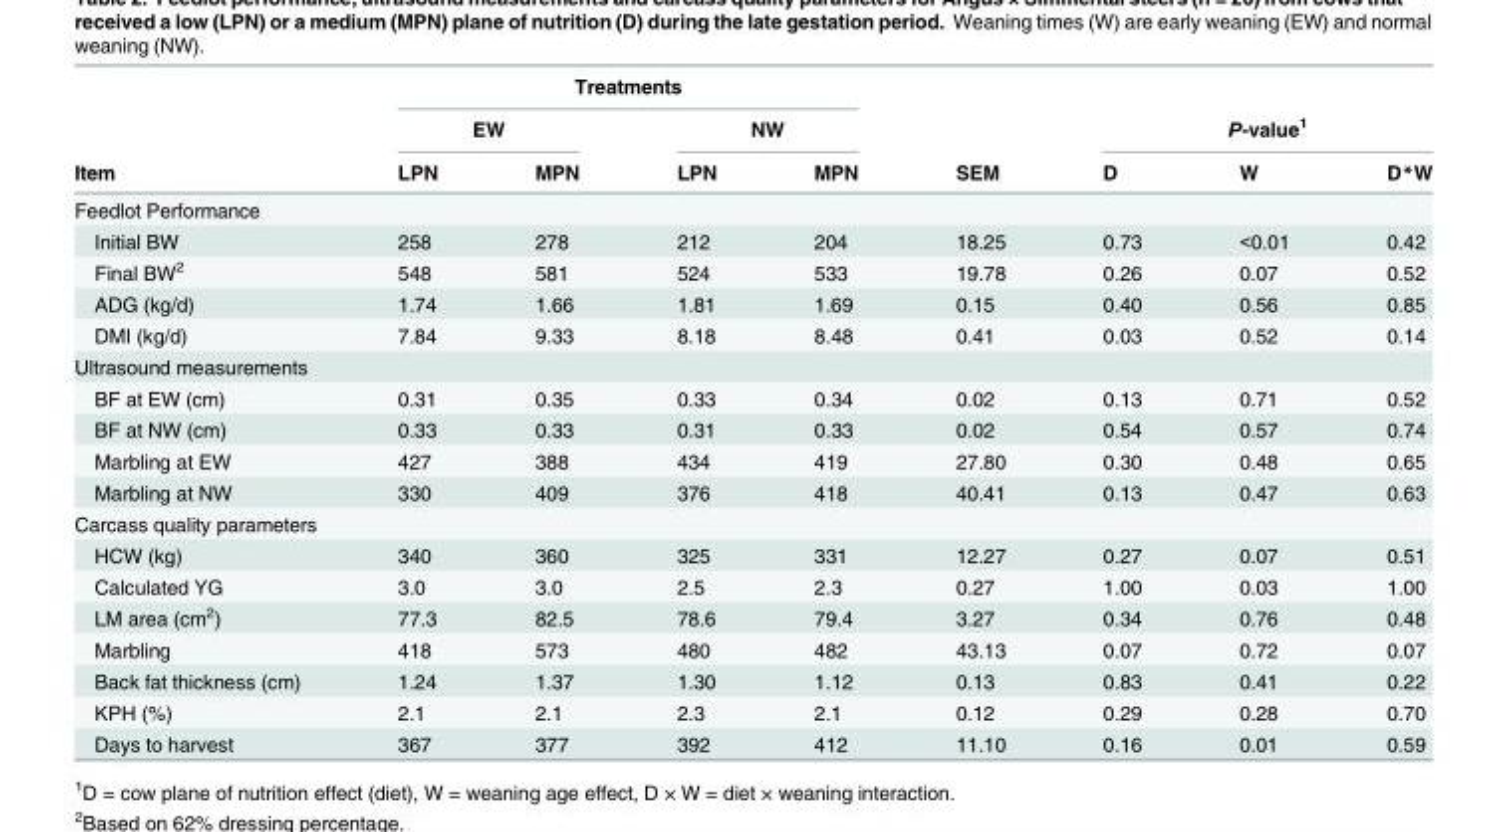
<table><thead><tr><td rowspan="3">Item</td><td colspan="4">Treatments</td><td rowspan="3">SEM</td><td></td><td></td><td></td></tr><tr><td colspan="2">EW</td><td colspan="2">NW</td><td colspan="3">P-value<sup>1</sup></td></tr><tr><td>LPN</td><td>MPN</td><td>LPN</td><td>MPN</td><td>D</td><td>W</td><td>D*W</td></tr></thead><tbody><tr><td colspan="9">Feedlot Performance</td></tr><tr><td>Initial BW</td><td>258</td><td>278</td><td>212</td><td>204</td><td>18.25</td><td>0.73</td><td>&lt;0.01</td><td>0.42</td></tr><tr><td>Final BW<sup>2</sup></td><td>548</td><td>581</td><td>524</td><td>533</td><td>19.78</td><td>0.26</td><td>0.07</td><td>0.52</td></tr><tr><td>ADG (kg/d)</td><td>1.74</td><td>1.66</td><td>1.81</td><td>1.69</td><td>0.15</td><td>0.40</td><td>0.56</td><td>0.85</td></tr><tr><td>DMI (kg/d)</td><td>7.84</td><td>9.33</td><td>8.18</td><td>8.48</td><td>0.41</td><td>0.03</td><td>0.52</td><td>0.14</td></tr><tr><td colspan="9">Ultrasound measurements</td></tr><tr><td>BF at EW (cm)</td><td>0.31</td><td>0.35</td><td>0.33</td><td>0.34</td><td>0.02</td><td>0.13</td><td>0.71</td><td>0.52</td></tr><tr><td>BF at NW (cm)</td><td>0.33</td><td>0.33</td><td>0.31</td><td>0.33</td><td>0.02</td><td>0.54</td><td>0.57</td><td>0.74</td></tr><tr><td>Marbling at EW</td><td>427</td><td>388</td><td>434</td><td>419</td><td>27.80</td><td>0.30</td><td>0.48</td><td>0.65</td></tr><tr><td>Marbling at NW</td><td>330</td><td>409</td><td>376</td><td>418</td><td>40.41</td><td>0.13</td><td>0.47</td><td>0.63</td></tr><tr><td colspan="9">Carcass quality parameters</td></tr><tr><td>HCW (kg)</td><td>340</td><td>360</td><td>325</td><td>331</td><td>12.27</td><td>0.27</td><td>0.07</td><td>0.51</td></tr><tr><td>Calculated YG</td><td>3.0</td><td>3.0</td><td>2.5</td><td>2.3</td><td>0.27</td><td>1.00</td><td>0.03</td><td>1.00</td></tr><tr><td>LM area (cm<sup>2</sup>)</td><td>77.3</td><td>82.5</td><td>78.6</td><td>79.4</td><td>3.27</td><td>0.34</td><td>0.76</td><td>0.48</td></tr><tr><td>Marbling</td><td>418</td><td>573</td><td>480</td><td>482</td><td>43.13</td><td>0.07</td><td>0.72</td><td>0.07</td></tr><tr><td>Back fat thickness (cm)</td><td>1.24</td><td>1.37</td><td>1.30</td><td>1.12</td><td>0.13</td><td>0.83</td><td>0.41</td><td>0.22</td></tr><tr><td>KPH (%)</td><td>2.1</td><td>2.1</td><td>2.3</td><td>2.1</td><td>0.12</td><td>0.29</td><td>0.28</td><td>0.70</td></tr><tr><td>Days to harvest</td><td>367</td><td>377</td><td>392</td><td>412</td><td>11.10</td><td>0.16</td><td>0.01</td><td>0.59</td></tr></tbody></table>